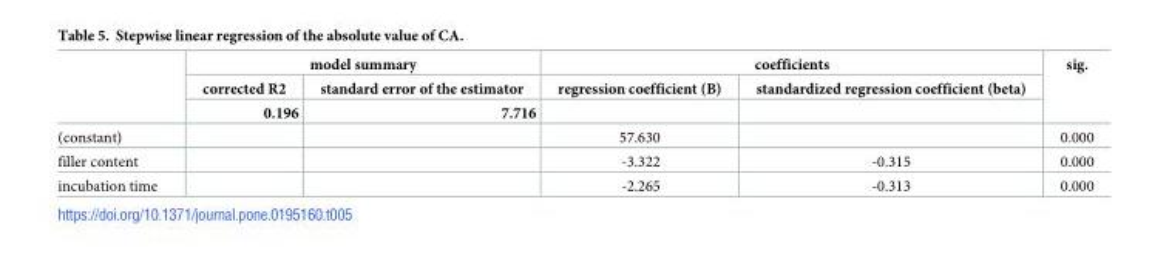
<table><thead><tr><td rowspan="3"></td><td colspan="2">model summary</td><td colspan="2">coefficients</td><td rowspan="3">sig.</td></tr><tr><td rowspan="2">corrected R2 0.196</td><td rowspan="2">standard error of the estimator 7.716</td><td rowspan="2">regression coefficient (B)</td><td rowspan="2">standardized regression coefficient (beta)</td></tr><tr></tr></thead><tbody><tr><td>(constant)</td><td></td><td></td><td>57.630</td><td></td><td>0.000</td></tr><tr><td>filler content</td><td></td><td></td><td>-3.322</td><td>-0.315</td><td>0.000</td></tr><tr><td>incubation time</td><td></td><td></td><td>-2.265</td><td>-0.313</td><td>0.000</td></tr></tbody></table>